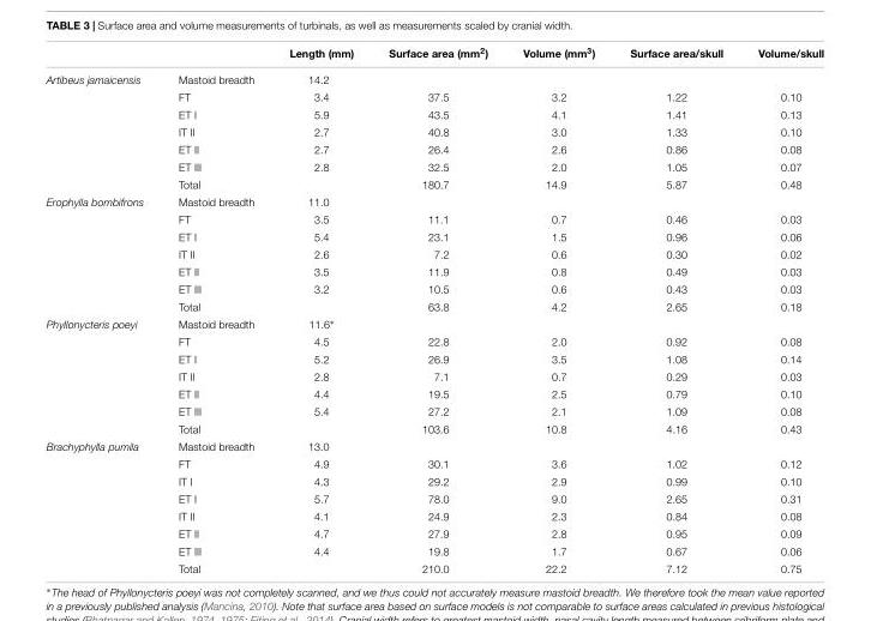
<table><thead><tr><td></td><td></td><td>Length (mm)</td><td>Surface area (mm<sup>2</sup>)</td><td>Volume (mm<sup>3</sup>)</td><td>Surface area/skull</td><td>Volume/skull</td></tr></thead><tbody><tr><td rowspan="7">Artibeus jamaicensis</td><td>Mastoid breadth</td><td>14.2</td><td></td><td></td><td></td><td></td></tr><tr><td>FT</td><td>3.4</td><td>37.5</td><td>3.2</td><td>1.22</td><td>0.10</td></tr><tr><td>ET I</td><td>5.9</td><td>43.5</td><td>4.1</td><td>1.41</td><td>0.13</td></tr><tr><td>IT II</td><td>2.7</td><td>40.8</td><td>3.0</td><td>1.33</td><td>0.10</td></tr><tr><td>ET II</td><td>2.7</td><td>26.4</td><td>2.6</td><td>0.86</td><td>0.08</td></tr><tr><td>ET III</td><td>2.8</td><td>32.5</td><td>2.0</td><td>1.05</td><td>0.07</td></tr><tr><td>Total</td><td></td><td>180.7</td><td>14.9</td><td>5.87</td><td>0.48</td></tr><tr><td rowspan="7">Erophylla bombifrons</td><td>Mastoid breadth</td><td>11.0</td><td></td><td></td><td></td><td></td></tr><tr><td>FT</td><td>3.5</td><td>11.1</td><td>0.7</td><td>0.46</td><td>0.03</td></tr><tr><td>ET I</td><td>5.4</td><td>23.1</td><td>1.5</td><td>0.96</td><td>0.06</td></tr><tr><td>IT II</td><td>2.6</td><td>7.2</td><td>0.6</td><td>0.30</td><td>0.02</td></tr><tr><td>ET II</td><td>3.5</td><td>11.9</td><td>0.8</td><td>0.49</td><td>0.03</td></tr><tr><td>ET III</td><td>3.2</td><td>10.5</td><td>0.6</td><td>0.43</td><td>0.03</td></tr><tr><td>Total</td><td></td><td>63.8</td><td>4.2</td><td>2.65</td><td>0.18</td></tr><tr><td rowspan="7">Phyllonycteris poeyi</td><td>Mastoid breadth</td><td>11.6∗</td><td></td><td></td><td></td><td></td></tr><tr><td>FT</td><td>4.5</td><td>22.8</td><td>2.0</td><td>0.92</td><td>0.08</td></tr><tr><td>ET I</td><td>5.2</td><td>26.9</td><td>3.5</td><td>1.08</td><td>0.14</td></tr><tr><td>IT II</td><td>2.8</td><td>7.1</td><td>0.7</td><td>0.29</td><td>0.03</td></tr><tr><td>ET II</td><td>4.4</td><td>19.5</td><td>2.5</td><td>0.79</td><td>0.10</td></tr><tr><td>ET III</td><td>5.4</td><td>27.2</td><td>2.1</td><td>1.09</td><td>0.08</td></tr><tr><td>Total</td><td></td><td>103.6</td><td>10.8</td><td>4.16</td><td>0.43</td></tr><tr><td rowspan="8">Brachyphylla pumila</td><td>Mastoid breadth</td><td>13.0</td><td></td><td></td><td></td><td></td></tr><tr><td>FT</td><td>4.9</td><td>30.1</td><td>3.6</td><td>1.02</td><td>0.12</td></tr><tr><td>IT I</td><td>4.3</td><td>29.2</td><td>2.9</td><td>0.99</td><td>0.10</td></tr><tr><td>ET I</td><td>5.7</td><td>78.0</td><td>9.0</td><td>2.65</td><td>0.31</td></tr><tr><td>IT II</td><td>4.1</td><td>24.9</td><td>2.3</td><td>0.84</td><td>0.08</td></tr><tr><td>ET II</td><td>4.7</td><td>27.9</td><td>2.8</td><td>0.95</td><td>0.09</td></tr><tr><td>ET III</td><td>4.4</td><td>19.8</td><td>1.7</td><td>0.67</td><td>0.06</td></tr><tr><td>Total</td><td></td><td>210.0</td><td>22.2</td><td>7.12</td><td>0.75</td></tr></tbody></table>